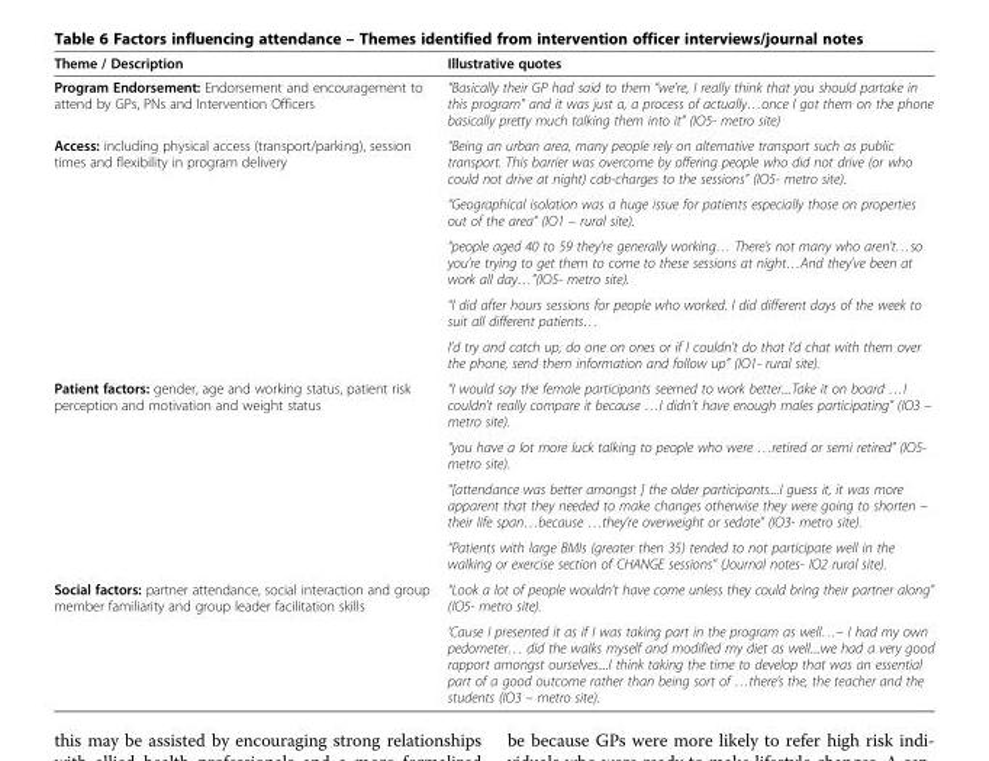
<table><thead><tr><td>Theme / Description</td><td>Illustrative quotes</td></tr></thead><tbody><tr><td>Program Endorsement: Endorsement and encouragement to attend by GPs, PNs and Intervention Officers</td><td>“Basically their GP had said to them “we’re, I really think that you should partake in this program” and it was just a, a process of actually…once I got them on the phone basically pretty much talking them into it” (IO5- metro site)</td></tr><tr><td rowspan="5">Access: including physical access (transport/parking), session times and flexibility in program delivery</td><td>“Being an urban area, many people rely on alternative transport such as public transport. This barrier was overcome by offering people who did not drive (or who could not drive at night) cab-charges to the sessions” (IO5- metro site).</td></tr><tr><td>“Geographical isolation was a huge issue for patients especially those on properties out of the area” (IO1 – rural site).</td></tr><tr><td>“people aged 40 to 59 they’re generally working… There’s not many who aren’t…so you’re trying to get them to come to these sessions at night…And they’ve been at work all day…”(IO5- metro site).</td></tr><tr><td>“I did after hours sessions for people who worked. I did different days of the week to suit all different patients…</td></tr><tr><td>I’d try and catch up, do one on ones or if I couldn’t do that I’d chat with them over the phone, send them information and follow up” (IO1- rural site).</td></tr><tr><td rowspan="4">Patient factors: gender, age and working status, patient risk perception and motivation and weight status</td><td>“I would say the female participants seemed to work better....Take it on board …I couldn’t really compare it because …I didn’t have enough males participating” (IO3 – metro site).</td></tr><tr><td>“you have a lot more luck talking to people who were …retired or semi retired” (IO5- metro site).</td></tr><tr><td>“[attendance was better amongst ] the older participants....I guess it, it was more apparent that they needed to make changes otherwise they were going to shorten – their life span…because …they’re overweight or sedate” (IO3- metro site).</td></tr><tr><td>“Patients with large BMIs (greater then 35) tended to not participate well in the walking or exercise section of CHANGE sessions” (Journal notes- IO2 rural site).</td></tr><tr><td rowspan="2">Social factors: partner attendance, social interaction and group member familiarity and group leader facilitation skills</td><td>“Look a lot of people wouldn’t have come unless they could bring their partner along” (IO5- metro site).</td></tr><tr><td>‘Cause I presented it as if I was taking part in the program as well…– I had my own pedometer… did the walks myself and modified my diet as well....we had a very good rapport amongst ourselves....I think taking the time to develop that was an essential part of a good outcome rather than being sort of …there’s the, the teacher and the students (IO3 – metro site).</td></tr></tbody></table>